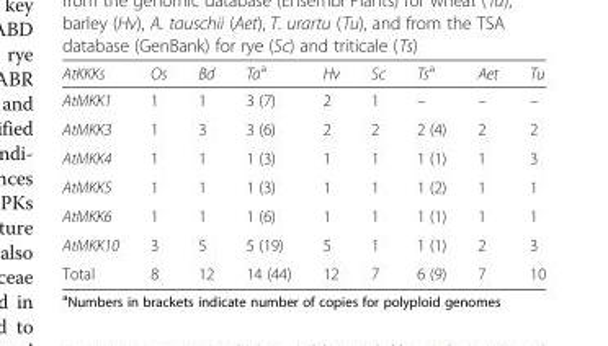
<table><thead><tr><td>AtKKKs</td><td>Os</td><td>Bd</td><td>Ta<sup>a</sup></td><td>Hv</td><td>Sc</td><td>Ts<sup>a</sup></td><td>Aet</td><td>Tu</td></tr></thead><tbody><tr><td>AtMKK1</td><td>1</td><td>1</td><td>3 (7)</td><td>2</td><td>1</td><td>–</td><td>–</td><td>–</td></tr><tr><td>AtMKK3</td><td>1</td><td>3</td><td>3 (6)</td><td>2</td><td>2</td><td>2 (4)</td><td>2</td><td>2</td></tr><tr><td>AtMKK4</td><td>1</td><td>1</td><td>1 (3)</td><td>1</td><td>1</td><td>1 (1)</td><td>1</td><td>3</td></tr><tr><td>AtMKK5</td><td>1</td><td>1</td><td>1 (3)</td><td>1</td><td>1</td><td>1 (2)</td><td>1</td><td>1</td></tr><tr><td>AtMKK6</td><td>1</td><td>1</td><td>1 (6)</td><td>1</td><td>1</td><td>1 (1)</td><td>1</td><td>1</td></tr><tr><td>AtMKK10</td><td>3</td><td>5</td><td>5 (19)</td><td>5</td><td>1</td><td>1 (1)</td><td>2</td><td>3</td></tr><tr><td>Total</td><td>8</td><td>12</td><td>14 (44)</td><td>12</td><td>7</td><td>6 (9)</td><td>7</td><td>10</td></tr></tbody></table>